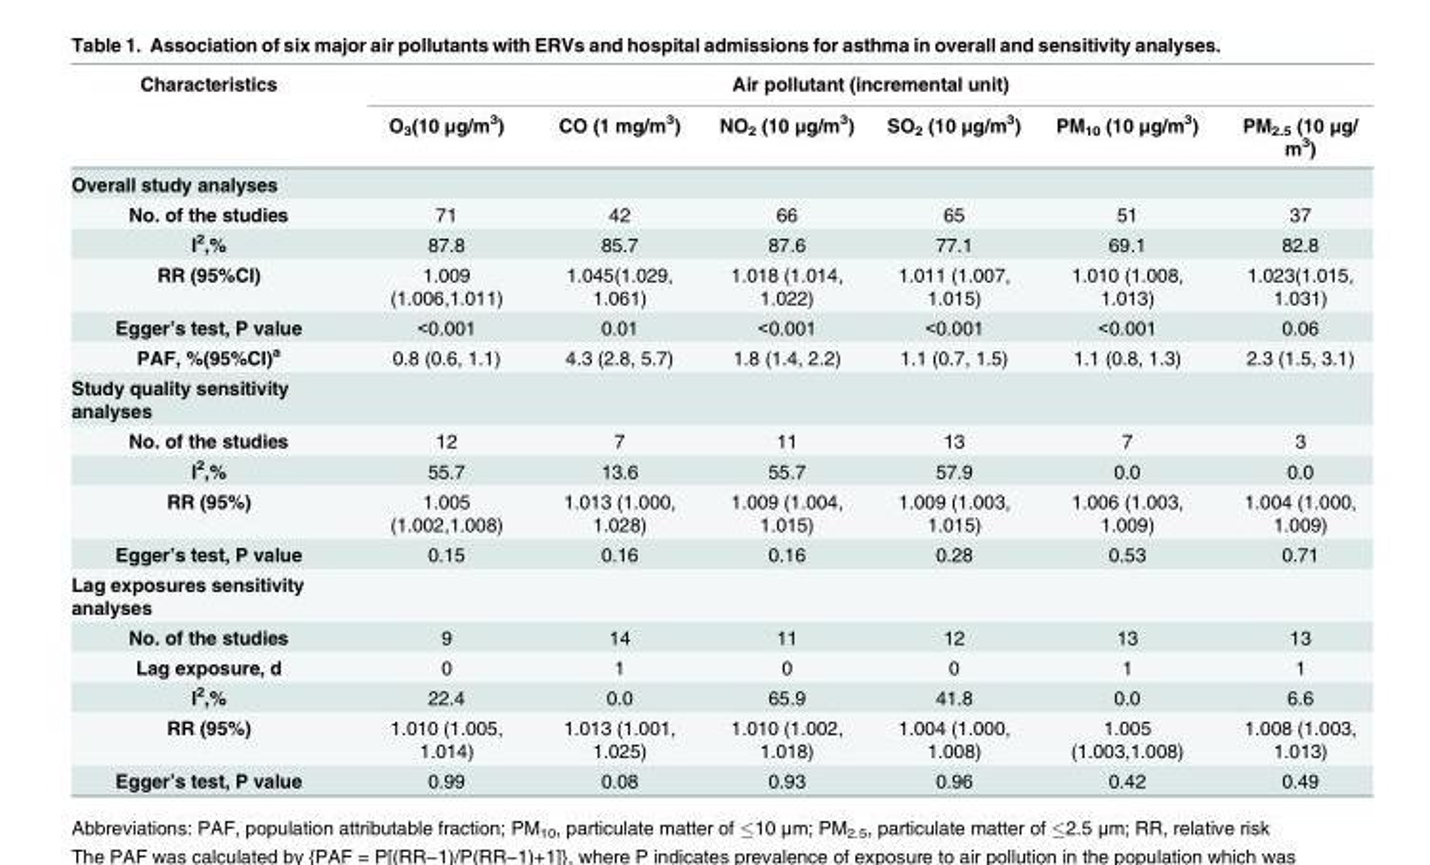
<table><thead><tr><td rowspan="2">Characteristics</td><td colspan="6">Air pollutant (incremental unit)</td></tr><tr><td>O<sub>3</sub>(10 μg/m<sup>3</sup>)</td><td>CO (1 mg/m<sup>3</sup>)</td><td>NO<sub>2</sub> (10 μg/m<sup>3</sup>)</td><td>SO<sub>2</sub> (10 μg/m<sup>3</sup>)</td><td>PM<sub>10</sub> (10 μg/m<sup>3</sup>)</td><td>PM<sub>2.5</sub> (10 μg/ m<sup>3</sup>)</td></tr></thead><tbody><tr><td colspan="7">Overall study analyses</td></tr><tr><td>No. of the studies</td><td>71</td><td>42</td><td>66</td><td>65</td><td>51</td><td>37</td></tr><tr><td>I<sup>2</sup>,%</td><td>87.8</td><td>85.7</td><td>87.6</td><td>77.1</td><td>69.1</td><td>82.8</td></tr><tr><td>RR (95%CI)</td><td>1.009 (1.006,1.011)</td><td>1.045(1.029, 1.061)</td><td>1.018 (1.014, 1.022)</td><td>1.011 (1.007, 1.015)</td><td>1.010 (1.008, 1.013)</td><td>1.023(1.015, 1.031)</td></tr><tr><td>Egger’s test, P value</td><td>&lt;0.001</td><td>0.01</td><td>&lt;0.001</td><td>&lt;0.001</td><td>&lt;0.001</td><td>0.06</td></tr><tr><td>PAF, %(95%CI)<sup>a</sup></td><td>0.8 (0.6, 1.1)</td><td>4.3 (2.8, 5.7)</td><td>1.8 (1.4, 2.2)</td><td>1.1 (0.7, 1.5)</td><td>1.1 (0.8, 1.3)</td><td>2.3 (1.5, 3.1)</td></tr><tr><td colspan="7">Study quality sensitivity analyses</td></tr><tr><td>No. of the studies</td><td>12</td><td>7</td><td>11</td><td>13</td><td>7</td><td>3</td></tr><tr><td>I<sup>2</sup>,%</td><td>55.7</td><td>13.6</td><td>55.7</td><td>57.9</td><td>0.0</td><td>0.0</td></tr><tr><td>RR (95%)</td><td>1.005 (1.002,1.008)</td><td>1.013 (1.000, 1.028)</td><td>1.009 (1.004, 1.015)</td><td>1.009 (1.003, 1.015)</td><td>1.006 (1.003, 1.009)</td><td>1.004 (1.000, 1.009)</td></tr><tr><td>Egger’s test, P value</td><td>0.15</td><td>0.16</td><td>0.16</td><td>0.28</td><td>0.53</td><td>0.71</td></tr><tr><td colspan="7">Lag exposures sensitivity analyses</td></tr><tr><td>No. of the studies</td><td>9</td><td>14</td><td>11</td><td>12</td><td>13</td><td>13</td></tr><tr><td>Lag exposure, d</td><td>0</td><td>1</td><td>0</td><td>0</td><td>1</td><td>1</td></tr><tr><td>I<sup>2</sup>,%</td><td>22.4</td><td>0.0</td><td>65.9</td><td>41.8</td><td>0.0</td><td>6.6</td></tr><tr><td>RR (95%)</td><td>1.010 (1.005, 1.014)</td><td>1.013 (1.001, 1.025)</td><td>1.010 (1.002, 1.018)</td><td>1.004 (1.000, 1.008)</td><td>1.005 (1.003,1.008)</td><td>1.008 (1.003, 1.013)</td></tr><tr><td>Egger’s test, P value</td><td>0.99</td><td>0.08</td><td>0.93</td><td>0.96</td><td>0.42</td><td>0.49</td></tr></tbody></table>